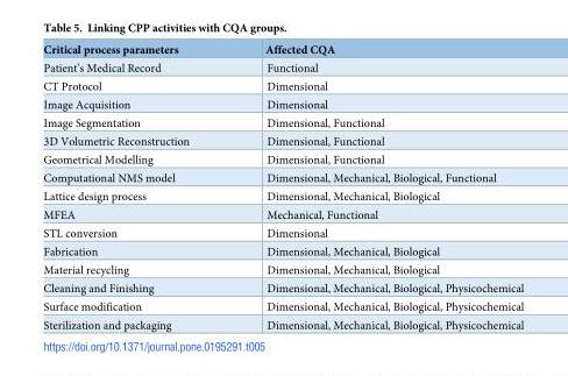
<table><thead><tr><td>Critical process parameters</td><td>Affected CQA</td></tr></thead><tbody><tr><td>Patient’s Medical Record</td><td>Functional</td></tr><tr><td>CT Protocol</td><td>Dimensional</td></tr><tr><td>Image Acquisition</td><td>Dimensional</td></tr><tr><td>Image Segmentation</td><td>Dimensional, Functional</td></tr><tr><td>3D Volumetric Reconstruction</td><td>Dimensional, Functional</td></tr><tr><td>Geometrical Modelling</td><td>Dimensional, Functional</td></tr><tr><td>Computational NMS model</td><td>Dimensional, Mechanical, Biological, Functional</td></tr><tr><td>Lattice design process</td><td>Dimensional, Mechanical, Biological</td></tr><tr><td>MFEA</td><td>Mechanical, Functional</td></tr><tr><td>STL conversion</td><td>Dimensional</td></tr><tr><td>Fabrication</td><td>Dimensional, Mechanical, Biological</td></tr><tr><td>Material recycling</td><td>Dimensional, Mechanical, Biological</td></tr><tr><td>Cleaning and Finishing</td><td>Dimensional, Mechanical, Biological, Physicochemical</td></tr><tr><td>Surface modification</td><td>Dimensional, Mechanical, Biological, Physicochemical</td></tr><tr><td>Sterilization and packaging</td><td>Dimensional, Mechanical, Biological, Physicochemical</td></tr></tbody></table>